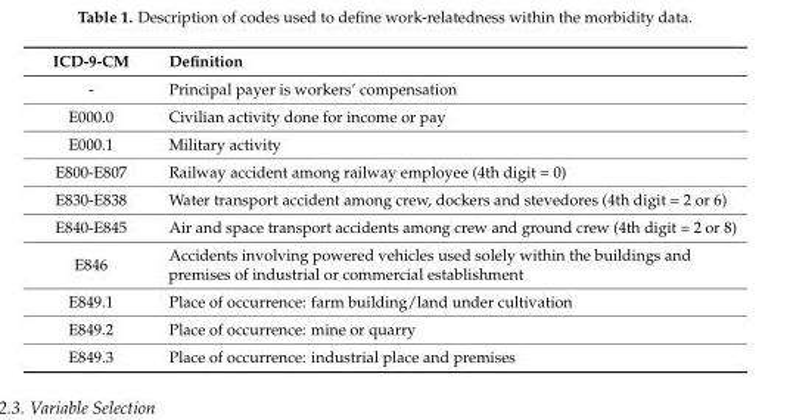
<table><thead><tr><td>ICD-9-CM</td><td>Definition</td></tr></thead><tbody><tr><td>-</td><td>Principal payer is workers’ compensation</td></tr><tr><td>E000.0</td><td>Civilian activity done for income or pay</td></tr><tr><td>E000.1</td><td>Military activity</td></tr><tr><td>E800-E807</td><td>Railway accident among railway employee (4th digit = 0)</td></tr><tr><td>E830-E838</td><td>Water transport accident among crew, dockers and stevedores (4th digit = 2 or 6)</td></tr><tr><td>E840-E845</td><td>Air and space transport accidents among crew and ground crew (4th digit = 2 or 8)</td></tr><tr><td>E846</td><td>Accidents involving powered vehicles used solely within the buildings and premises of industrial or commercial establishment</td></tr><tr><td>E849.1</td><td>Place of occurrence: farm building/land under cultivation</td></tr><tr><td>E849.2</td><td>Place of occurrence: mine or quarry</td></tr><tr><td>E849.3</td><td>Place of occurrence: industrial place and premises</td></tr></tbody></table>